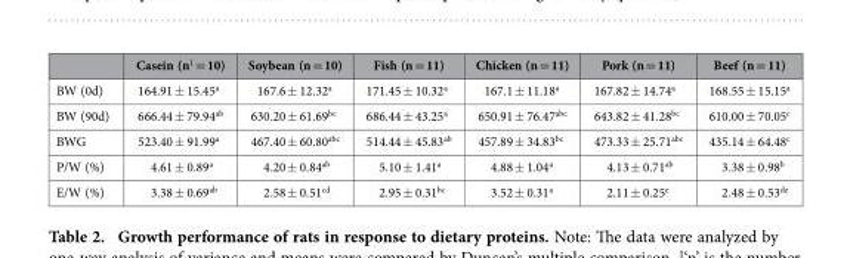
<table><thead><tr><td></td><td>Casein (n<sup>1</sup> = 10)</td><td>Soybean (n = 10)</td><td>Fish (n = 11)</td><td>Chicken (n = 11)</td><td>Pork (n = 11)</td><td>Beef (n = 11)</td></tr></thead><tbody><tr><td>BW (0d)</td><td>164.91 ± 15.45<sup>a</sup></td><td>167.6 ± 12.32<sup>a</sup></td><td>171.45 ± 10.32<sup>a</sup></td><td>167.1 ± 11.18<sup>a</sup></td><td>167.82 ± 14.74<sup>a</sup></td><td>168.55 ± 15.15<sup>a</sup></td></tr><tr><td>BW (90d)</td><td>666.44 ± 79.94<sup>ab</sup></td><td>630.20 ± 61.69<sup>bc</sup></td><td>686.44 ± 43.25<sup>a</sup></td><td>650.91 ± 76.47<sup>abc</sup></td><td>643.82 ± 41.28<sup>bc</sup></td><td>610.00 ± 70.05<sup>c</sup></td></tr><tr><td>BWG</td><td>523.40 ± 91.99<sup>a</sup></td><td>467.40 ± 60.80<sup>abc</sup></td><td>514.44 ± 45.83<sup>ab</sup></td><td>457.89 ± 34.83<sup>bc</sup></td><td>473.33 ± 25.71<sup>abc</sup></td><td>435.14 ± 64.48<sup>c</sup></td></tr><tr><td>P/W (%)</td><td>4.61 ± 0.89<sup>a</sup></td><td>4.20 ± 0.84<sup>ab</sup></td><td>5.10 ± 1.41<sup>a</sup></td><td>4.88 ± 1.04<sup>a</sup></td><td>4.13 ± 0.71<sup>ab</sup></td><td>3.38 ± 0.98<sup>b</sup></td></tr><tr><td>E/W (%)</td><td>3.38 ± 0.69<sup>ab</sup></td><td>2.58 ± 0.51<sup>cd</sup></td><td>2.95 ± 0.31<sup>bc</sup></td><td>3.52 ± 0.31<sup>a</sup></td><td>2.11 ± 0.25<sup>e</sup></td><td>2.48 ± 0.53<sup>de</sup></td></tr></tbody></table>